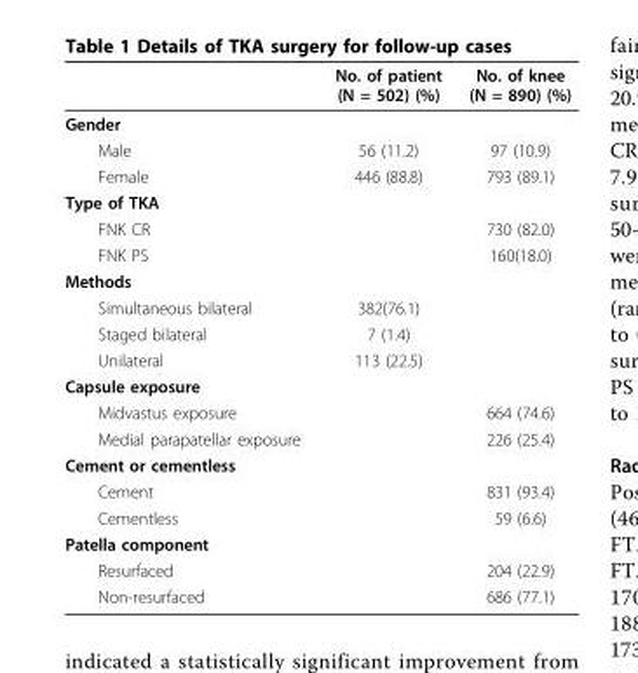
<table><thead><tr><td></td><td>No. of patient (N = 502) (%)</td><td>No. of knee (N = 890) (%)</td></tr></thead><tbody><tr><td colspan="3">Gender</td></tr><tr><td>Male</td><td>56 (11.2)</td><td>97 (10.9)</td></tr><tr><td>Female</td><td>446 (88.8)</td><td>793 (89.1)</td></tr><tr><td colspan="3">Type of TKA</td></tr><tr><td>FNK CR</td><td></td><td>730 (82.0)</td></tr><tr><td>FNK PS</td><td></td><td>160(18.0)</td></tr><tr><td colspan="3">Methods</td></tr><tr><td>Simultaneous bilateral</td><td>382(76.1)</td><td></td></tr><tr><td>Staged bilateral</td><td>7 (1.4)</td><td></td></tr><tr><td>Unilateral</td><td>113 (22.5)</td><td></td></tr><tr><td colspan="3">Capsule exposure</td></tr><tr><td>Midvastus exposure</td><td></td><td>664 (74.6)</td></tr><tr><td>Medial parapatellar exposure</td><td></td><td>226 (25.4)</td></tr><tr><td colspan="3">Cement or cementless</td></tr><tr><td>Cement</td><td></td><td>831 (93.4)</td></tr><tr><td>Cementless</td><td></td><td>59 (6.6)</td></tr><tr><td colspan="3">Patella component</td></tr><tr><td>Resurfaced</td><td></td><td>204 (22.9)</td></tr><tr><td>Non-resurfaced</td><td></td><td>686 (77.1)</td></tr></tbody></table>